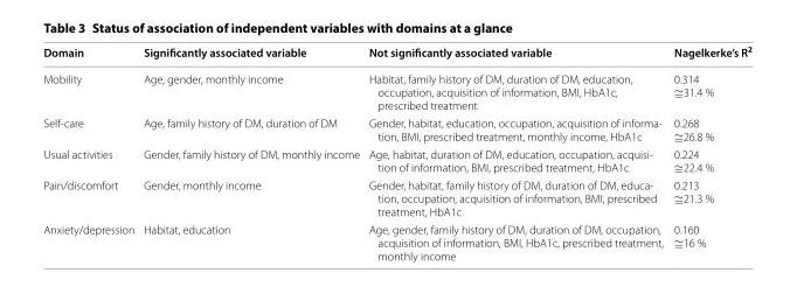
<table><thead><tr><td>Domain</td><td>Significantly associated variable</td><td>Not significantly associated variable</td><td>Nagelkerke’s R<sup>2</sup></td></tr></thead><tbody><tr><td>Mobility</td><td>Age, gender, monthly income</td><td>Habitat, family history of DM, duration of DM, education, occupation, acquisition of information, BMI, HbA1c, prescribed treatment</td><td>0.314 ≅31.4 %</td></tr><tr><td>Self-care</td><td>Age, family history of DM, duration of DM</td><td>Gender, habitat, education, occupation, acquisition of informa- tion, BMI, prescribed treatment, monthly income, HbA1c</td><td>0.268 ≅26.8 %</td></tr><tr><td>Usual activities</td><td>Gender, family history of DM, monthly income</td><td>Age, habitat, duration of DM, education, occupation, acquisi- tion of information, BMI, prescribed treatment, HbA1c</td><td>0.224 ≅22.4 %</td></tr><tr><td>Pain/discomfort</td><td>Gender, monthly income</td><td>Gender, habitat, family history of DM, duration of DM, educa- tion, occupation, acquisition of information, BMI, prescribed treatment, HbA1c</td><td>0.213 ≅21.3 %</td></tr><tr><td>Anxiety/depression</td><td>Habitat, education</td><td>Age, gender, family history of DM, duration of DM, occupation, acquisition of information, BMI, HbA1c, prescribed treatment, monthly income</td><td>0.160 ≅16 %</td></tr></tbody></table>